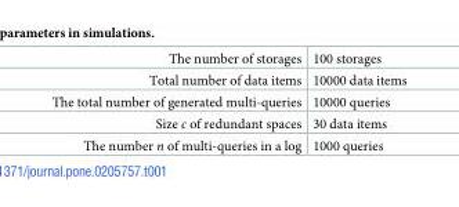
<table><tbody><tr><td>The number of storages</td><td>100 storages</td></tr><tr><td>Total number of data items</td><td>10000 data items</td></tr><tr><td>The total number of generated multi-queries</td><td>10000 queries</td></tr><tr><td>Size c of redundant spaces</td><td>30 data items</td></tr><tr><td>The number n of multi-queries in a log</td><td>1000 queries</td></tr></tbody></table>